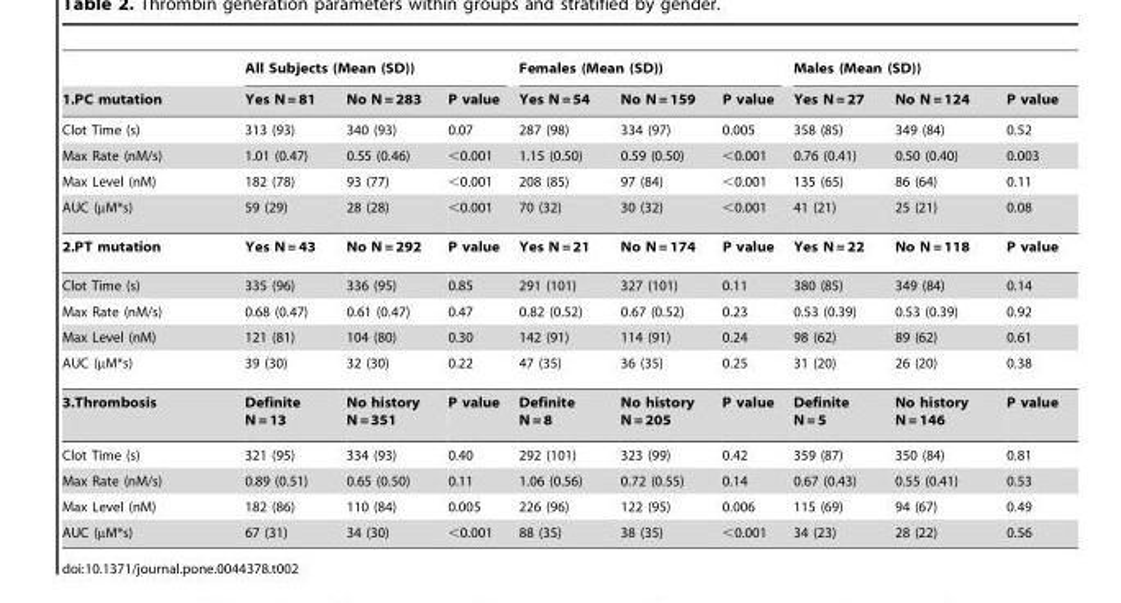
<table><thead><tr><td rowspan="2">1.PC mutation</td><td colspan="3">All Subjects (Mean (SD))</td><td colspan="3">Females (Mean (SD))</td><td colspan="3">Males (Mean (SD))</td></tr><tr><td>Yes N = 81</td><td>No N = 283</td><td>P value</td><td>Yes N = 54</td><td>No N = 159</td><td>P value</td><td>Yes N = 27</td><td>No N = 124</td><td>P value</td></tr></thead><tbody><tr><td>Clot Time (s)</td><td>313 (93)</td><td>340 (93)</td><td>0.07</td><td>287 (98)</td><td>334 (97)</td><td>0.005</td><td>358 (85)</td><td>349 (84)</td><td>0.52</td></tr><tr><td>Max Rate (nM/s)</td><td>1.01 (0.47)</td><td>0.55 (0.46)</td><td>&lt;0.001</td><td>1.15 (0.50)</td><td>0.59 (0.50)</td><td>&lt;0.001</td><td>0.76 (0.41)</td><td>0.50 (0.40)</td><td>0.003</td></tr><tr><td>Max Level (nM)</td><td>182 (78)</td><td>93 (77)</td><td>&lt;0.001</td><td>208 (85)</td><td>97 (84)</td><td>&lt;0.001</td><td>135 (65)</td><td>86 (64)</td><td>0.11</td></tr><tr><td>AUC (µM*s)</td><td>59 (29)</td><td>28 (28)</td><td>&lt;0.001</td><td>70 (32)</td><td>30 (32)</td><td>&lt;0.001</td><td>41 (21)</td><td>25 (21)</td><td>0.08</td></tr><tr><td>2.PT mutation</td><td>Yes N = 43</td><td>No N = 292</td><td>P value</td><td>Yes N = 21</td><td>No N = 174</td><td>P value</td><td>Yes N = 22</td><td>No N = 118</td><td>P value</td></tr><tr><td>Clot Time (s)</td><td>335 (96)</td><td>336 (95)</td><td>0.85</td><td>291 (101)</td><td>327 (101)</td><td>0.11</td><td>380 (85)</td><td>349 (84)</td><td>0.14</td></tr><tr><td>Max Rate (nM/s)</td><td>0.68 (0.47)</td><td>0.61 (0.47)</td><td>0.47</td><td>0.82 (0.52)</td><td>0.67 (0.52)</td><td>0.23</td><td>0.53 (0.39)</td><td>0.53 (0.39)</td><td>0.92</td></tr><tr><td>Max Level (nM)</td><td>121 (81)</td><td>104 (80)</td><td>0.30</td><td>142 (91)</td><td>114 (91)</td><td>0.24</td><td>98 (62)</td><td>89 (62)</td><td>0.61</td></tr><tr><td>AUC (µM*s)</td><td>39 (30)</td><td>32 (30)</td><td>0.22</td><td>47 (35)</td><td>36 (35)</td><td>0.25</td><td>31 (20)</td><td>26 (20)</td><td>0.38</td></tr><tr><td>3.Thrombosis</td><td>Definite N = 13</td><td>No history N = 351</td><td>P value</td><td>Definite N = 8</td><td>No history N = 205</td><td>P value</td><td>Definite N = 5</td><td>No history N = 146</td><td>P value</td></tr><tr><td>Clot Time (s)</td><td>321 (95)</td><td>334 (93)</td><td>0.40</td><td>292 (101)</td><td>323 (99)</td><td>0.42</td><td>359 (87)</td><td>350 (84)</td><td>0.81</td></tr><tr><td>Max Rate (nM/s)</td><td>0.89 (0.51)</td><td>0.65 (0.50)</td><td>0.11</td><td>1.06 (0.56)</td><td>0.72 (0.55)</td><td>0.14</td><td>0.67 (0.43)</td><td>0.55 (0.41)</td><td>0.53</td></tr><tr><td>Max Level (nM)</td><td>182 (86)</td><td>110 (84)</td><td>0.005</td><td>226 (96)</td><td>122 (95)</td><td>0.006</td><td>115 (69)</td><td>94 (67)</td><td>0.49</td></tr><tr><td>AUC (µM*s)</td><td>67 (31)</td><td>34 (30)</td><td>&lt;0.001</td><td>88 (35)</td><td>38 (35)</td><td>&lt;0.001</td><td>34 (23)</td><td>28 (22)</td><td>0.56</td></tr></tbody></table>